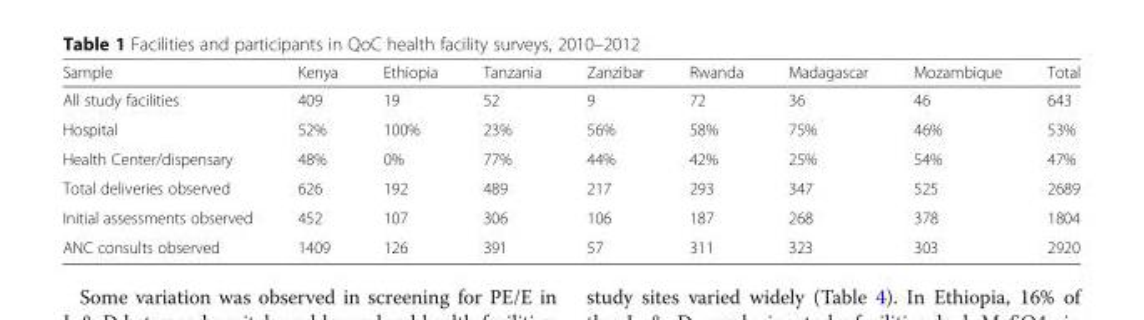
<table><thead><tr><td>Sample</td><td>Kenya</td><td>Ethiopia</td><td>Tanzania</td><td>Zanzibar</td><td>Rwanda</td><td>Madagascar</td><td>Mozambique</td><td>Total</td></tr></thead><tbody><tr><td>All study facilities</td><td>409</td><td>19</td><td>52</td><td>9</td><td>72</td><td>36</td><td>46</td><td>643</td></tr><tr><td>Hospital</td><td>52%</td><td>100%</td><td>23%</td><td>56%</td><td>58%</td><td>75%</td><td>46%</td><td>53%</td></tr><tr><td>Health Center/dispensary</td><td>48%</td><td>0%</td><td>77%</td><td>44%</td><td>42%</td><td>25%</td><td>54%</td><td>47%</td></tr><tr><td>Total deliveries observed</td><td>626</td><td>192</td><td>489</td><td>217</td><td>293</td><td>347</td><td>525</td><td>2689</td></tr><tr><td>Initial assessments observed</td><td>452</td><td>107</td><td>306</td><td>106</td><td>187</td><td>268</td><td>378</td><td>1804</td></tr><tr><td>ANC consults observed</td><td>1409</td><td>126</td><td>391</td><td>57</td><td>311</td><td>323</td><td>303</td><td>2920</td></tr></tbody></table>